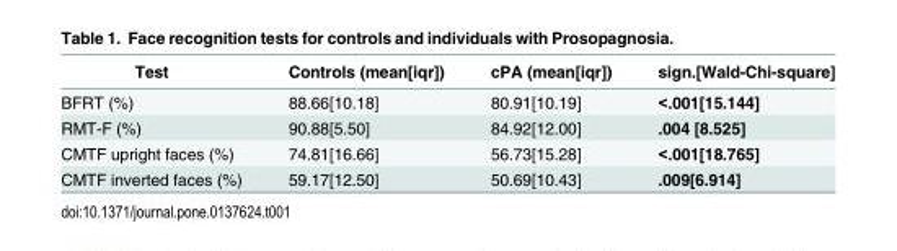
<table><thead><tr><td>Test</td><td>Controls (mean[iqr])</td><td>cPA (mean[iqr])</td><td>sign.[Wald-Chi-square]</td></tr></thead><tbody><tr><td>BFRT (%)</td><td>88.66[10.18]</td><td>80.91[10.19]</td><td>&lt;.001[15.144]</td></tr><tr><td>RMT-F (%)</td><td>90.88[5.50]</td><td>84.92[12.00]</td><td>.004 [8.525]</td></tr><tr><td>CMTF upright faces (%)</td><td>74.81[16.66]</td><td>56.73[15.28]</td><td>&lt;.001[18.765]</td></tr><tr><td>CMTF inverted faces (%)</td><td>59.17[12.50]</td><td>50.69[10.43]</td><td>.009[6.914]</td></tr></tbody></table>